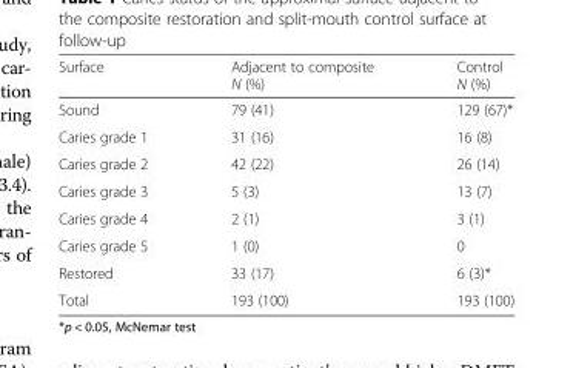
<table><thead><tr><td>Surface</td><td>Adjacent to composite N (%)</td><td>Control N (%)</td></tr></thead><tbody><tr><td>Sound</td><td>79 (41)</td><td>129 (67)*</td></tr><tr><td>Caries grade 1</td><td>31 (16)</td><td>16 (8)</td></tr><tr><td>Caries grade 2</td><td>42 (22)</td><td>26 (14)</td></tr><tr><td>Caries grade 3</td><td>5 (3)</td><td>13 (7)</td></tr><tr><td>Caries grade 4</td><td>2 (1)</td><td>3 (1)</td></tr><tr><td>Caries grade 5</td><td>1 (0)</td><td>0</td></tr><tr><td>Restored</td><td>33 (17)</td><td>6 (3)*</td></tr><tr><td>Total</td><td>193 (100)</td><td>193 (100)</td></tr></tbody></table>